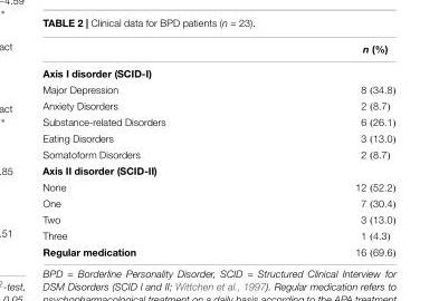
<table><thead><tr><td></td><td>n (%)</td></tr></thead><tbody><tr><td colspan="2">Axis I disorder (SCID-I)</td></tr><tr><td>Major Depression</td><td>8 (34.8)</td></tr><tr><td>Anxiety Disorders</td><td>2 (8.7)</td></tr><tr><td>Substance-related Disorders</td><td>6 (26.1)</td></tr><tr><td>Eating Disorders</td><td>3 (13.0)</td></tr><tr><td>Somatoform Disorders</td><td>2 (8.7)</td></tr><tr><td colspan="2">Axis II disorder (SCID-II)</td></tr><tr><td>None</td><td>12 (52.2)</td></tr><tr><td>One</td><td>7 (30.4)</td></tr><tr><td>Two</td><td>3 (13.0)</td></tr><tr><td>Three</td><td>1 (4.3)</td></tr><tr><td>Regular medication</td><td>16 (69.6)</td></tr></tbody></table>